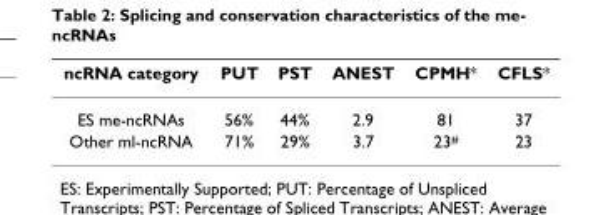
<table><thead><tr><td>ncRNA category</td><td>PUT</td><td>PST</td><td>ANEST</td><td>CPMH*</td><td>CFLS*</td></tr></thead><tbody><tr><td>ES me-ncRNAs</td><td>56%</td><td>44%</td><td>2.9</td><td>81</td><td>37</td></tr><tr><td>Other ml-ncRNA</td><td>71%</td><td>29%</td><td>3.7</td><td>23<sup>#</sup></td><td>23</td></tr></tbody></table>